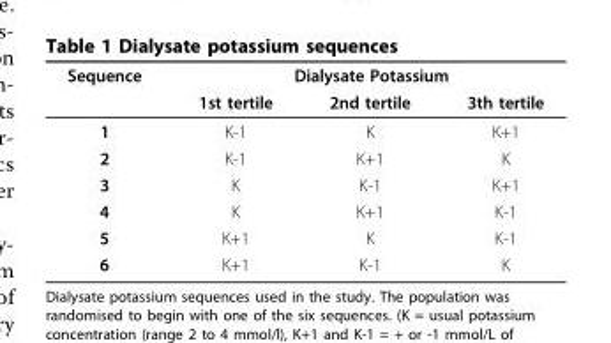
<table><thead><tr><td rowspan="2">Sequence</td><td colspan="3">Dialysate Potassium</td></tr><tr><td>1st tertile</td><td>2nd tertile</td><td>3th tertile</td></tr></thead><tbody><tr><td>1</td><td>K-1</td><td>K</td><td>K+1</td></tr><tr><td>2</td><td>K-1</td><td>K+1</td><td>K</td></tr><tr><td>3</td><td>K</td><td>K-1</td><td>K+1</td></tr><tr><td>4</td><td>K</td><td>K+1</td><td>K-1</td></tr><tr><td>5</td><td>K+1</td><td>K</td><td>K-1</td></tr><tr><td>6</td><td>K+1</td><td>K-1</td><td>K</td></tr></tbody></table>